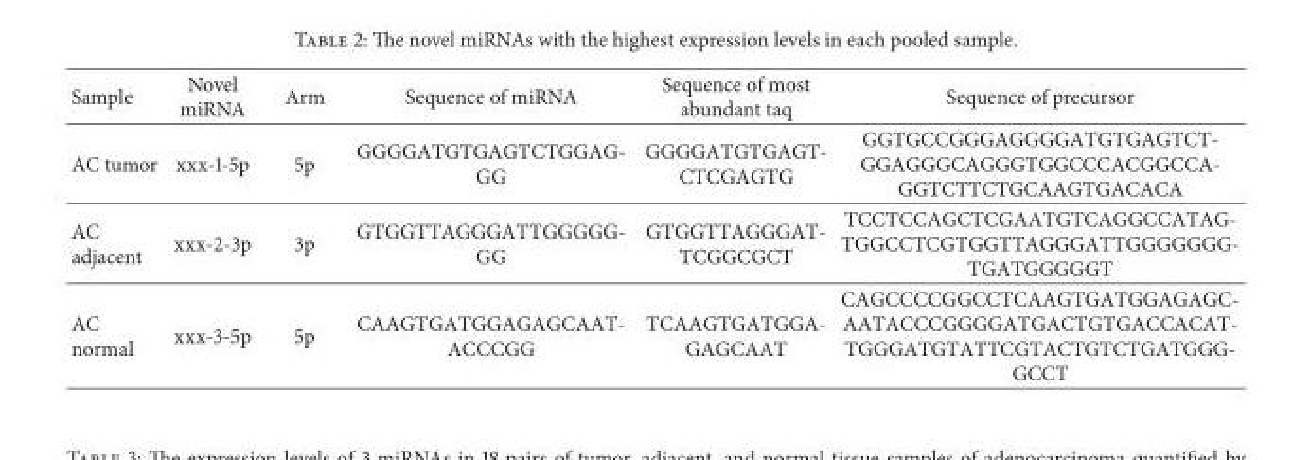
<table><thead><tr><td>Sample</td><td>Novel miRNA</td><td>Arm</td><td>Sequence of miRNA</td><td>Sequence of most abundant taq</td><td>Sequence of precursor</td></tr></thead><tbody><tr><td>AC tumor</td><td>xxx-1-5p</td><td>5p</td><td>GGGGATGTGAGTCTGGAG- GG</td><td>GGGGATGTGAGT- CTCGAGTG</td><td>GGTGCCGGGAGGGGATGTGAGTCT- GGAGGGCAGGGTGGCCCACGGCCA- GGTCTTCTGCAAGTGACACA</td></tr><tr><td>AC adjacent</td><td>xxx-2-3p</td><td>3p</td><td>GTGGTTAGGGATTGGGGG- GG</td><td>GTGGTTAGGGAT- TCGGCGCT</td><td>TCCTCCAGCTCGAATGTCAGGCCATAG- TGGCCTCGTGGTTAGGGATTGGGGGGG- TGATGGGGGT</td></tr><tr><td>AC normal</td><td>xxx-3-5p</td><td>5p</td><td>CAAGTGATGGAGAGCAAT- ACCCGG</td><td>TCAAGTGATGGA- GAGCAAT</td><td>CAGCCCCGGCCTCAAGTGATGGAGAGC- AATACCCGGGGATGACTGTGACCACAT- TGGGATGTATTCGTACTGTCTGATGGG- GCCT</td></tr></tbody></table>